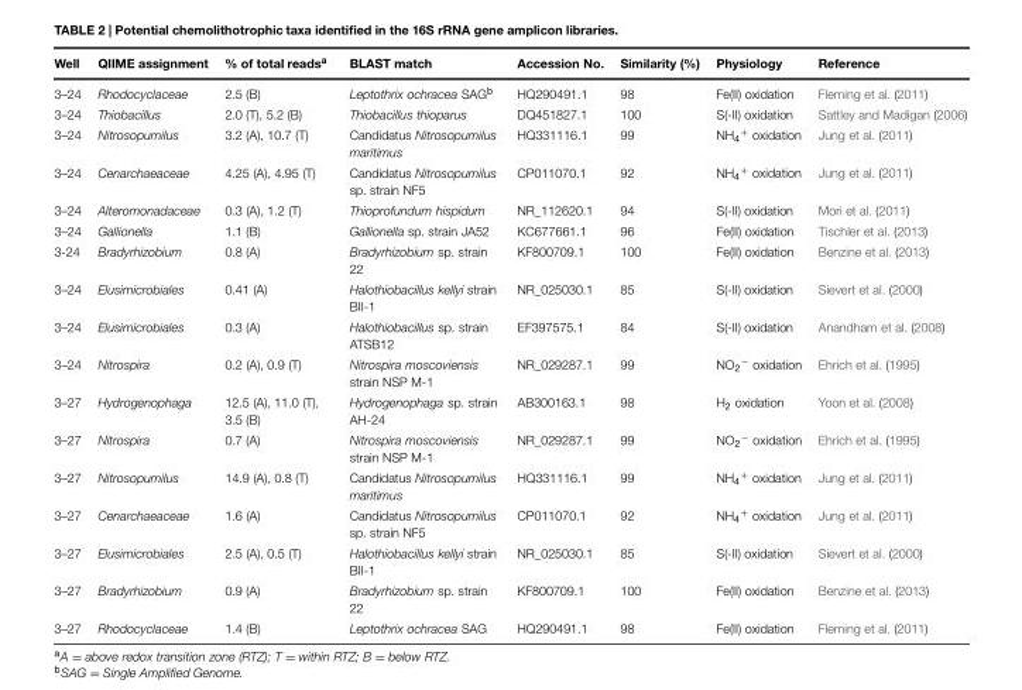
<table><thead><tr><td>Well</td><td>QIIME assignment</td><td>% of total reads<sup>a</sup></td><td>BLAST match</td><td>Accession No.</td><td>Similarity (%)</td><td>Physiology</td><td>Reference</td></tr></thead><tbody><tr><td>3–24</td><td>Rhodocyclaceae</td><td>2.5 (B)</td><td>Leptothrix ochracea SAG<sup>b</sup></td><td>HQ290491.1</td><td>98</td><td>Fe(II) oxidation</td><td>Fleming et al. (2011)</td></tr><tr><td>3–24</td><td>Thiobacillus</td><td>2.0 (T), 5.2 (B)</td><td>Thiobacillus thioparus</td><td>DQ451827.1</td><td>100</td><td>S(-II) oxidation</td><td>Sattley and Madigan (2006)</td></tr><tr><td>3–24</td><td>Nitrosopumilus</td><td>3.2 (A), 10.7 (T)</td><td>Candidatus Nitrosopumilus maritimus</td><td>HQ331116.1</td><td>99</td><td>NH<sub>4</sub><sup>+</sup> oxidation</td><td>Jung et al. (2011)</td></tr><tr><td>3–24</td><td>Cenarchaeaceae</td><td>4.25 (A), 4.95 (T)</td><td>Candidatus Nitrosopumilus sp. strain NF5</td><td>CP011070.1</td><td>92</td><td>NH<sub>4</sub><sup>+</sup> oxidation</td><td>Jung et al. (2011)</td></tr><tr><td>3–24</td><td>Alteromonadaceae</td><td>0.3 (A), 1.2 (T)</td><td>Thioprofundum hispidum</td><td>NR_112620.1</td><td>94</td><td>S(-II) oxidation</td><td>Mori et al. (2011)</td></tr><tr><td>3–24</td><td>Gallionella</td><td>1.1 (B)</td><td>Gallionella sp. strain JA52</td><td>KC677661.1</td><td>96</td><td>Fe(II) oxidation</td><td>Tischler et al. (2013)</td></tr><tr><td>3-24</td><td>Bradyrhizobium</td><td>0.8 (A)</td><td>Bradyrhizobium sp. strain 22</td><td>KF800709.1</td><td>100</td><td>Fe(II) oxidation</td><td>Benzine et al. (2013)</td></tr><tr><td>3–24</td><td>Elusimicrobiales</td><td>0.41 (A)</td><td>Halothiobacillus kellyi strain BII-1</td><td>NR_025030.1</td><td>85</td><td>S(-II) oxidation</td><td>Sievert et al. (2000)</td></tr><tr><td>3–24</td><td>Elusimicrobiales</td><td>0.3 (A)</td><td>Halothiobacillus sp. strain ATSB12</td><td>EF397575.1</td><td>84</td><td>S(-II) oxidation</td><td>Anandham et al. (2008)</td></tr><tr><td>3–24</td><td>Nitrospira</td><td>0.2 (A), 0.9 (T)</td><td>Nitrospira moscoviensis strain NSP M-1</td><td>NR_029287.1</td><td>99</td><td>NO<sub>2</sub><sup>−</sup> oxidation</td><td>Ehrich et al. (1995)</td></tr><tr><td>3–27</td><td>Hydrogenophaga</td><td>12.5 (A), 11.0 (T), 3.5 (B)</td><td>Hydrogenophaga sp. strain AH-24</td><td>AB300163.1</td><td>98</td><td>H<sub>2</sub> oxidation</td><td>Yoon et al. (2008)</td></tr><tr><td>3–27</td><td>Nitrospira</td><td>0.7 (A)</td><td>Nitrospira moscoviensis strain NSP M-1</td><td>NR_029287.1</td><td>99</td><td>NO<sub>2</sub><sup>−</sup> oxidation</td><td>Ehrich et al. (1995)</td></tr><tr><td>3–27</td><td>Nitrosopumilus</td><td>14.9 (A), 0.8 (T)</td><td>Candidatus Nitrosopumilus maritimus</td><td>HQ331116.1</td><td>99</td><td>NH<sub>4</sub><sup>+</sup> oxidation</td><td>Jung et al. (2011)</td></tr><tr><td>3–27</td><td>Cenarchaeaceae</td><td>1.6 (A)</td><td>Candidatus Nitrosopumilus sp. strain NF5</td><td>CP011070.1</td><td>92</td><td>NH<sub>4</sub><sup>+</sup> oxidation</td><td>Jung et al. (2011)</td></tr><tr><td>3–27</td><td>Elusimicrobiales</td><td>2.5 (A), 0.5 (T)</td><td>Halothiobacillus kellyi strain BII-1</td><td>NR_025030.1</td><td>85</td><td>S(-II) oxidation</td><td>Sievert et al. (2000)</td></tr><tr><td>3–27</td><td>Bradyrhizobium</td><td>0.9 (A)</td><td>Bradyrhizobium sp. strain 22</td><td>KF800709.1</td><td>100</td><td>Fe(II) oxidation</td><td>Benzine et al. (2013)</td></tr><tr><td>3–27</td><td>Rhodocyclaceae</td><td>1.4 (B)</td><td>Leptothrix ochracea SAG</td><td>HQ290491.1</td><td>98</td><td>Fe(II) oxidation</td><td>Fleming et al. (2011)</td></tr></tbody></table>